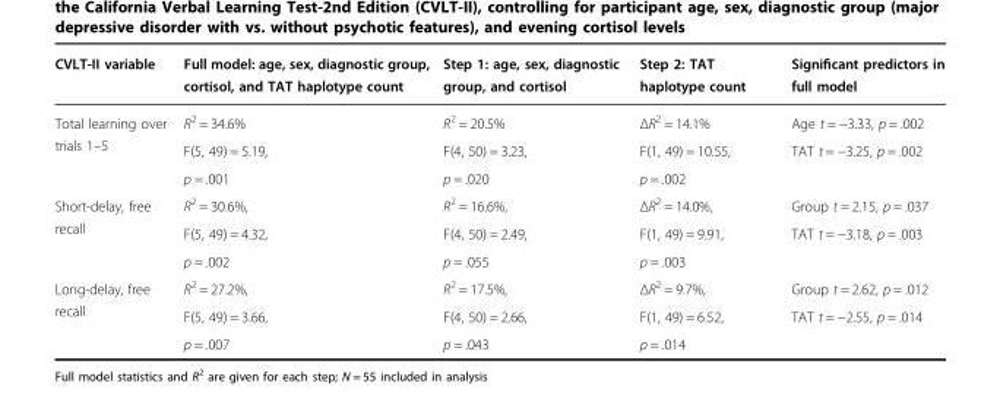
<table><thead><tr><td>CVLT-II variable</td><td>Full model: age, sex, diagnostic group, cortisol, and TAT haplotype count</td><td>Step 1: age, sex, diagnostic group, and cortisol</td><td>Step 2: TAT haplotype count</td><td>Significant predictors in full model</td></tr></thead><tbody><tr><td rowspan="3">Total learning over trials 1–5</td><td>R<sup>2</sup> = 34.6%</td><td>R<sup>2</sup> = 20.5%</td><td>ΔR<sup>2</sup> = 14.1%</td><td>Age t = −3.33, p = .002</td></tr><tr><td>F(5, 49) = 5.19,</td><td>F(4, 50) = 3.23,</td><td>F(1, 49) = 10.55,</td><td rowspan="2">TAT t = −3.25, p = .002</td></tr><tr><td>p = .001</td><td>p = .020</td><td>p = .002</td></tr><tr><td rowspan="3">Short-delay, free recall</td><td>R<sup>2</sup> = 30.6%,</td><td>R<sup>2</sup> = 16.6%,</td><td>ΔR<sup>2</sup> = 14.0%,</td><td>Group t = 2.15, p = .037</td></tr><tr><td>F(5, 49) = 4.32,</td><td>F(4, 50) = 2.49,</td><td>F(1, 49) = 9.91,</td><td rowspan="2">TAT t = −3.18, p = .003</td></tr><tr><td>p = .002</td><td>p = .055</td><td>p = .003</td></tr><tr><td rowspan="3">Long-delay, free recall</td><td>R<sup>2</sup> = 27.2%,</td><td>R<sup>2</sup> = 17.5%,</td><td>ΔR<sup>2</sup> = 9.7%,</td><td>Group t = 2.62, p = .012</td></tr><tr><td>F(5, 49) = 3.66,</td><td>F(4, 50) = 2.66,</td><td>F(1, 49) = 6.52,</td><td rowspan="2">TAT t = −2.55, p = .014</td></tr><tr><td>p = .007</td><td>p = .043</td><td>p = .014</td></tr></tbody></table>